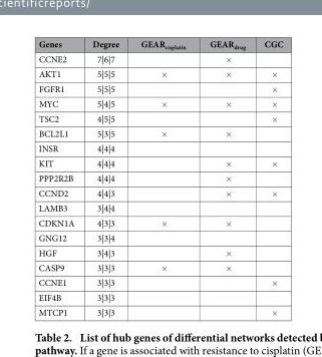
<table><thead><tr><td>Genes</td><td>Degree</td><td>GEAR<sub>cisplatin</sub></td><td>GEAR<sub>drug</sub></td><td>CGC</td></tr></thead><tbody><tr><td>CCNE2</td><td>7|6|7</td><td></td><td>×</td><td></td></tr><tr><td>AKT1</td><td>5|5|5</td><td>×</td><td>×</td><td>×</td></tr><tr><td>FGFR1</td><td>5|5|5</td><td></td><td></td><td>×</td></tr><tr><td>MYC</td><td>5|4|5</td><td>×</td><td>×</td><td>×</td></tr><tr><td>TSC2</td><td>4|5|5</td><td></td><td></td><td>×</td></tr><tr><td>BCL2L1</td><td>5|3|5</td><td>×</td><td>×</td><td></td></tr><tr><td>INSR</td><td>4|4|4</td><td></td><td></td><td></td></tr><tr><td>KIT</td><td>4|4|4</td><td></td><td>×</td><td>×</td></tr><tr><td>PPP2R2B</td><td>4|4|4</td><td></td><td>×</td><td></td></tr><tr><td>CCND2</td><td>4|4|3</td><td></td><td>×</td><td>×</td></tr><tr><td>LAMB3</td><td>3|4|4</td><td></td><td></td><td></td></tr><tr><td>CDKN1A</td><td>4|3|3</td><td>×</td><td>×</td><td></td></tr><tr><td>GNG12</td><td>3|3|4</td><td></td><td></td><td></td></tr><tr><td>HGF</td><td>3|4|3</td><td></td><td>×</td><td></td></tr><tr><td>CASP9</td><td>3|3|3</td><td>×</td><td>×</td><td></td></tr><tr><td>CCNE1</td><td>3|3|3</td><td></td><td></td><td>×</td></tr><tr><td>EIF4B</td><td>3|3|3</td><td></td><td></td><td></td></tr><tr><td>MTCP1</td><td>3|3|3</td><td></td><td></td><td>×</td></tr></tbody></table>